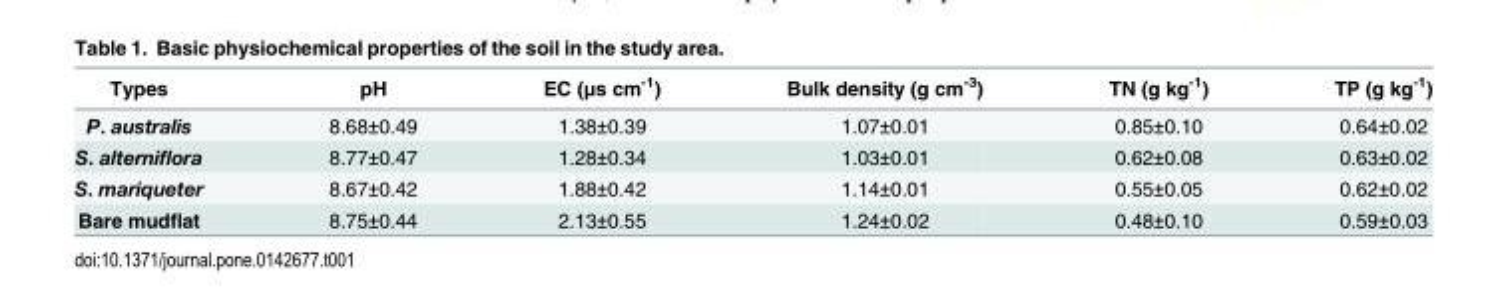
<table><thead><tr><td>Types</td><td>pH</td><td>EC (μs cm<sup>-1</sup>)</td><td>Bulk density (g cm<sup>-3</sup>)</td><td>TN (g kg<sup>-1</sup>)</td><td>TP (g kg<sup>-1</sup>)</td></tr></thead><tbody><tr><td>P. australis</td><td>8.68±0.49</td><td>1.38±0.39</td><td>1.07±0.01</td><td>0.85±0.10</td><td>0.64±0.02</td></tr><tr><td>S. alterniflora</td><td>8.77±0.47</td><td>1.28±0.34</td><td>1.03±0.01</td><td>0.62±0.08</td><td>0.63±0.02</td></tr><tr><td>S. mariqueter</td><td>8.67±0.42</td><td>1.88±0.42</td><td>1.14±0.01</td><td>0.55±0.05</td><td>0.62±0.02</td></tr><tr><td>Bare mudflat</td><td>8.75±0.44</td><td>2.13±0.55</td><td>1.24±0.02</td><td>0.48±0.10</td><td>0.59±0.03</td></tr></tbody></table>